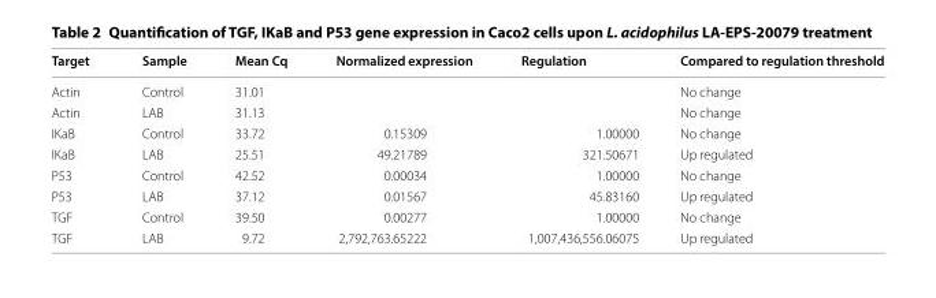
<table><thead><tr><td>Target</td><td>Sample</td><td>Mean Cq</td><td>Normalized expression</td><td>Regulation</td><td>Compared to regulation threshold</td></tr></thead><tbody><tr><td>Actin</td><td>Control</td><td>31.01</td><td></td><td></td><td>No change</td></tr><tr><td>Actin</td><td>LAB</td><td>31.13</td><td></td><td></td><td>No change</td></tr><tr><td>IKaB</td><td>Control</td><td>33.72</td><td>0.15309</td><td>1.00000</td><td>No change</td></tr><tr><td>IKaB</td><td>LAB</td><td>25.51</td><td>49.21789</td><td>321.50671</td><td>Up regulated</td></tr><tr><td>P53</td><td>Control</td><td>42.52</td><td>0.00034</td><td>1.00000</td><td>No change</td></tr><tr><td>P53</td><td>LAB</td><td>37.12</td><td>0.01567</td><td>45.83160</td><td>Up regulated</td></tr><tr><td>TGF</td><td>Control</td><td>39.50</td><td>0.00277</td><td>1.00000</td><td>No change</td></tr><tr><td>TGF</td><td>LAB</td><td>9.72</td><td>2,792,763.65222</td><td>1,007,436,556.06075</td><td>Up regulated</td></tr></tbody></table>